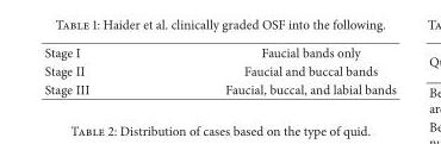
<table><tbody><tr><td>Stage I</td><td>Faucial bands only</td></tr><tr><td>Stage II</td><td>Faucial and buccal bands</td></tr><tr><td>Stage III</td><td>Faucial, buccal, and labial bands</td></tr></tbody></table>